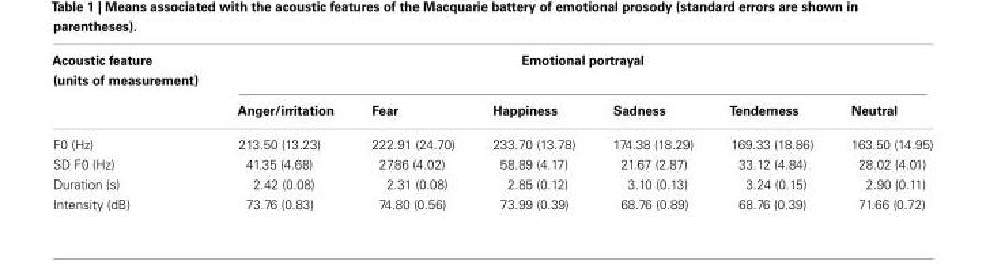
<table><thead><tr><td rowspan="2">Acoustic feature (units of measurement)</td><td colspan="6">Emotional portrayal</td></tr><tr><td>Anger/irritation</td><td>Fear</td><td>Happiness</td><td>Sadness</td><td>Tenderness</td><td>Neutral</td></tr></thead><tbody><tr><td>F0 (Hz)</td><td>213.50 (13.23)</td><td>222.91 (24.70)</td><td>233.70 (13.78)</td><td>174.38 (18.29)</td><td>169.33 (18.86)</td><td>163.50 (14.95)</td></tr><tr><td>SD F0 (Hz)</td><td>41.35 (4.68)</td><td>27.86 (4.02)</td><td>58.89 (4.17)</td><td>21.67 (2.87)</td><td>33.12 (4.84)</td><td>28.02 (4.01)</td></tr><tr><td>Duration (s)</td><td>2.42 (0.08)</td><td>2.31 (0.08)</td><td>2.85 (0.12)</td><td>3.10 (0.13)</td><td>3.24 (0.15)</td><td>2.90 (0.11)</td></tr><tr><td>Intensity (dB)</td><td>73.76 (0.83)</td><td>74.80 (0.56)</td><td>73.99 (0.39)</td><td>68.76 (0.89)</td><td>68.76 (0.39)</td><td>71.66 (0.72)</td></tr></tbody></table>